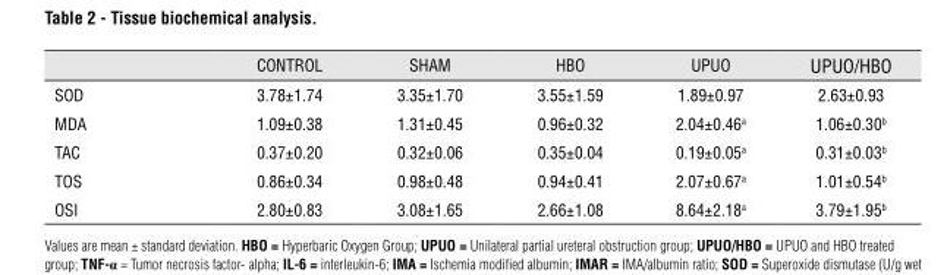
<table><thead><tr><td></td><td>CONTROL</td><td>SHAM</td><td>HBO</td><td>UPUO</td><td>UPUO/HBO</td></tr></thead><tbody><tr><td>SOD</td><td>3.78±1.74</td><td>3.35±1.70</td><td>3.55±1.59</td><td>1.89±0.97</td><td>2.63±0.93</td></tr><tr><td>MDA</td><td>1.09±0.38</td><td>1.31±0.45</td><td>0.96±0.32</td><td>2.04±0.46<sup>a</sup></td><td>1.06±0.30<sup>b</sup></td></tr><tr><td>TAC</td><td>0.37±0.20</td><td>0.32±0.06</td><td>0.35±0.04</td><td>0.19±0.05<sup>a</sup></td><td>0.31±0.03<sup>b</sup></td></tr><tr><td>TOS</td><td>0.86±0.34</td><td>0.98±0.48</td><td>0.94±0.41</td><td>2.07±0.67<sup>a</sup></td><td>1.01±0.54<sup>b</sup></td></tr><tr><td>OSI</td><td>2.80±0.83</td><td>3.08±1.65</td><td>2.66±1.08</td><td>8.64±2.18<sup>a</sup></td><td>3.79±1.95<sup>b</sup></td></tr></tbody></table>